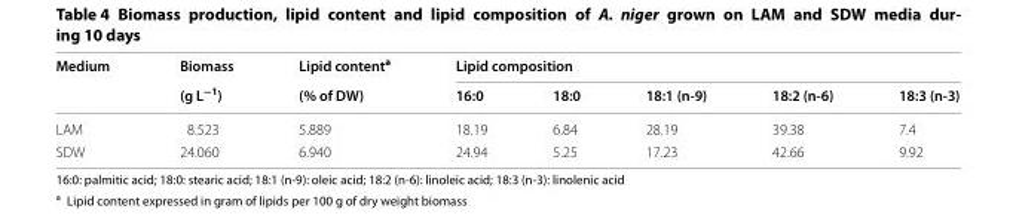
<table><thead><tr><td rowspan="2">Medium</td><td rowspan="2">Biomass (g L<sup>−1</sup>)</td><td rowspan="2">Lipid content<sup>a</sup> (% of DW)</td><td colspan="5">Lipid composition</td></tr><tr><td>16:0</td><td>18:0</td><td>18:1 (n‑9)</td><td>18:2 (n‑6)</td><td>18:3 (n‑3)</td></tr></thead><tbody><tr><td>LAM</td><td>8.523</td><td>5.889</td><td>18.19</td><td>6.84</td><td>28.19</td><td>39.38</td><td>7.4</td></tr><tr><td>SDW</td><td>24.060</td><td>6.940</td><td>24.94</td><td>5.25</td><td>17.23</td><td>42.66</td><td>9.92</td></tr></tbody></table>